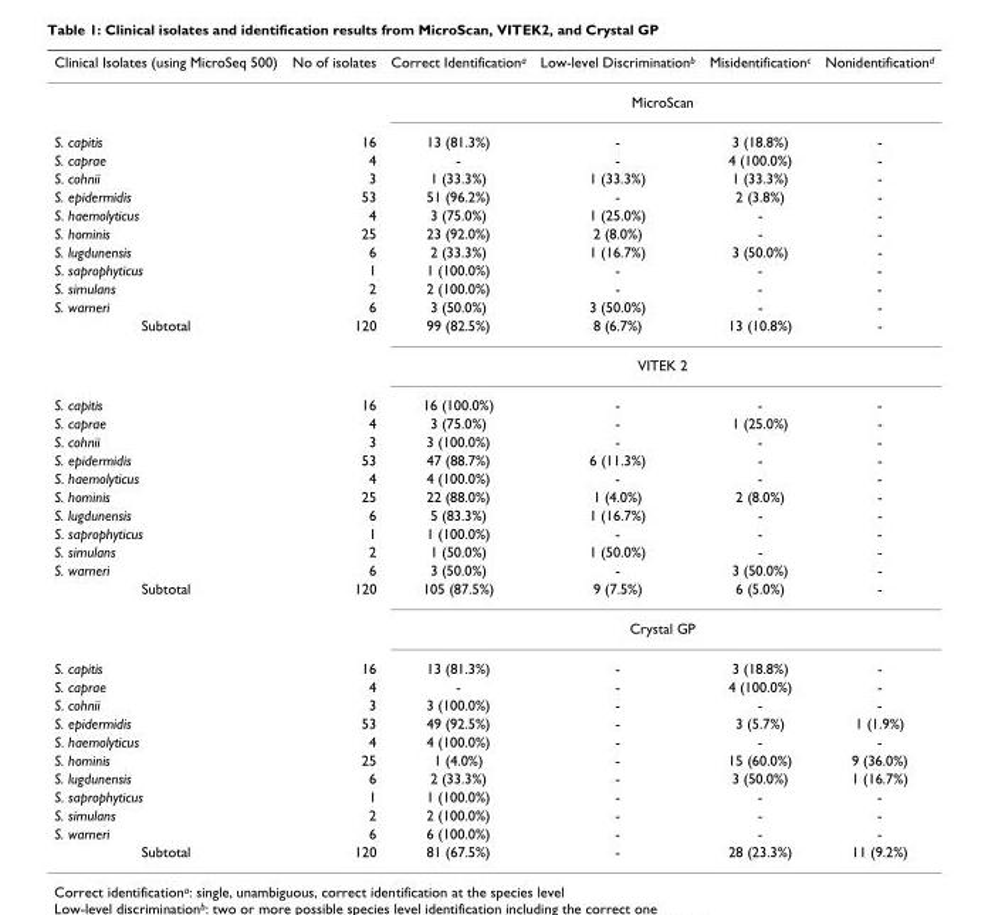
<table><thead><tr><td>Clinical Isolates (using MicroSeq 500)</td><td>No of isolates</td><td>Correct Identification<sup>a</sup></td><td>Low-level Discrimination<sup>b</sup></td><td>Misidentification<sup>c</sup></td><td>Nonidentification<sup>d</sup></td></tr></thead><tbody><tr><td></td><td></td><td colspan="4">MicroScan</td></tr><tr><td>S. capitis</td><td>16</td><td>13 (81.3%)</td><td>-</td><td>3 (18.8%)</td><td>-</td></tr><tr><td>S. caprae</td><td>4</td><td>-</td><td>-</td><td>4 (100.0%)</td><td>-</td></tr><tr><td>S. cohnii</td><td>3</td><td>1 (33.3%)</td><td>1 (33.3%)</td><td>1 (33.3%)</td><td>-</td></tr><tr><td>S. epidermidis</td><td>53</td><td>51 (96.2%)</td><td>-</td><td>2 (3.8%)</td><td>-</td></tr><tr><td>S. haemolyticus</td><td>4</td><td>3 (75.0%)</td><td>1 (25.0%)</td><td>-</td><td>-</td></tr><tr><td>S. hominis</td><td>25</td><td>23 (92.0%)</td><td>2 (8.0%)</td><td>-</td><td>-</td></tr><tr><td>S. lugdunensis</td><td>6</td><td>2 (33.3%)</td><td>1 (16.7%)</td><td>3 (50.0%)</td><td>-</td></tr><tr><td>S. saprophyticus</td><td>1</td><td>1 (100.0%)</td><td>-</td><td>-</td><td>-</td></tr><tr><td>S. simulans</td><td>2</td><td>2 (100.0%)</td><td>-</td><td>-</td><td>-</td></tr><tr><td>S. warneri</td><td>6</td><td>3 (50.0%)</td><td>3 (50.0%)</td><td>-</td><td>-</td></tr><tr><td rowspan="2">Subtotal</td><td>120</td><td>99 (82.5%)</td><td>8 (6.7%)</td><td>13 (10.8%)</td><td>-</td></tr><tr><td></td><td colspan="4">VITEK 2</td></tr><tr><td>S. capitis</td><td>16</td><td>16 (100.0%)</td><td>-</td><td>-</td><td>-</td></tr><tr><td>S. caprae</td><td>4</td><td>3 (75.0%)</td><td>-</td><td>1 (25.0%)</td><td>-</td></tr><tr><td>S. cohnii</td><td>3</td><td>3 (100.0%)</td><td>-</td><td>-</td><td>-</td></tr><tr><td>S. epidermidis</td><td>53</td><td>47 (88.7%)</td><td>6 (11.3%)</td><td>-</td><td>-</td></tr><tr><td>S. haemolyticus</td><td>4</td><td>4 (100.0%)</td><td>-</td><td>-</td><td>-</td></tr><tr><td>S. hominis</td><td>25</td><td>22 (88.0%)</td><td>1 (4.0%)</td><td>2 (8.0%)</td><td>-</td></tr><tr><td>S. lugdunensis</td><td>6</td><td>5 (83.3%)</td><td>1 (16.7%)</td><td>-</td><td>-</td></tr><tr><td>S. saprophyticus</td><td>1</td><td>1 (100.0%)</td><td>-</td><td>-</td><td>-</td></tr><tr><td>S. simulans</td><td>2</td><td>1 (50.0%)</td><td>1 (50.0%)</td><td>-</td><td>-</td></tr><tr><td>S. warneri</td><td>6</td><td>3 (50.0%)</td><td>-</td><td>3 (50.0%)</td><td>-</td></tr><tr><td rowspan="2">Subtotal</td><td>120</td><td>105 (87.5%)</td><td>9 (7.5%)</td><td>6 (5.0%)</td><td>-</td></tr><tr><td></td><td colspan="4">Crystal GP</td></tr><tr><td>S. capitis</td><td>16</td><td>13 (81.3%)</td><td>-</td><td>3 (18.8%)</td><td>-</td></tr><tr><td>S. caprae</td><td>4</td><td>-</td><td>-</td><td>4 (100.0%)</td><td>-</td></tr><tr><td>S. cohnii</td><td>3</td><td>3 (100.0%)</td><td>-</td><td>-</td><td>-</td></tr><tr><td>S. epidermidis</td><td>53</td><td>49 (92.5%)</td><td>-</td><td>3 (5.7%)</td><td>1 (1.9%)</td></tr><tr><td>S. haemolyticus</td><td>4</td><td>4 (100.0%)</td><td>-</td><td>-</td><td>-</td></tr><tr><td>S. hominis</td><td>25</td><td>1 (4.0%)</td><td>-</td><td>15 (60.0%)</td><td>9 (36.0%)</td></tr><tr><td>S. lugdunensis</td><td>6</td><td>2 (33.3%)</td><td>-</td><td>3 (50.0%)</td><td>1 (16.7%)</td></tr><tr><td>S. saprophyticus</td><td>1</td><td>1 (100.0%)</td><td>-</td><td>-</td><td>-</td></tr><tr><td>S. simulans</td><td>2</td><td>2 (100.0%)</td><td>-</td><td>-</td><td>-</td></tr><tr><td>S. warneri</td><td>6</td><td>6 (100.0%)</td><td>-</td><td>-</td><td>-</td></tr><tr><td>Subtotal</td><td>120</td><td>81 (67.5%)</td><td>-</td><td>28 (23.3%)</td><td>11 (9.2%)</td></tr></tbody></table>